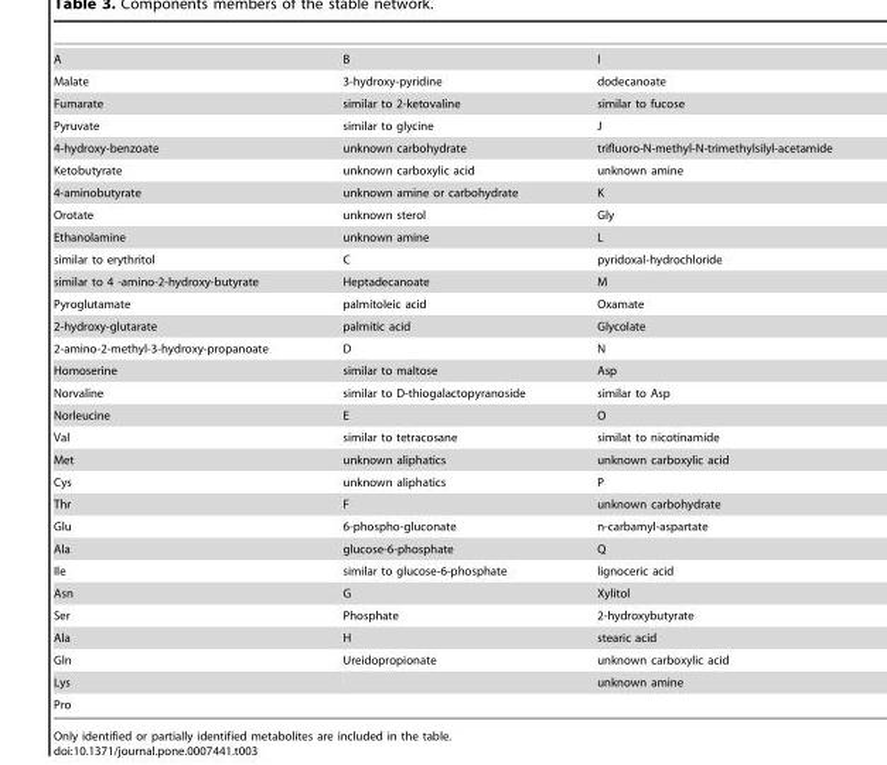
<table><tbody><tr><td>A</td><td>B</td><td>I</td></tr><tr><td>Malate</td><td>3-hydroxy-pyridine</td><td>dodecanoate</td></tr><tr><td>Fumarate</td><td>similar to 2-ketovaline</td><td>similar to fucose</td></tr><tr><td>Pyruvate</td><td>similar to glycine</td><td>J</td></tr><tr><td>4-hydroxy-benzoate</td><td>unknown carbohydrate</td><td>trifluoro-N-methyl-N-trimethylsilyl-acetamide</td></tr><tr><td>Ketobutyrate</td><td>unknown carboxylic acid</td><td>unknown amine</td></tr><tr><td>4-aminobutyrate</td><td>unknown amine or carbohydrate</td><td>K</td></tr><tr><td>Orotate</td><td>unknown sterol</td><td>Gly</td></tr><tr><td>Ethanolamine</td><td>unknown amine</td><td>L</td></tr><tr><td>similar to erythritol</td><td>C</td><td>pyridoxal-hydrochloride</td></tr><tr><td>similar to 4 -amino-2-hydroxy-butyrate</td><td>Heptadecanoate</td><td>M</td></tr><tr><td>Pyroglutamate</td><td>palmitoleic acid</td><td>Oxamate</td></tr><tr><td>2-hydroxy-glutarate</td><td>palmitic acid</td><td>Glycolate</td></tr><tr><td>2-amino-2-methyl-3-hydroxy-propanoate</td><td>D</td><td>N</td></tr><tr><td>Homoserine</td><td>similar to maltose</td><td>Asp</td></tr><tr><td>Norvaline</td><td>similar to D-thiogalactopyranoside</td><td>similar to Asp</td></tr><tr><td>Norleucine</td><td>E</td><td>O</td></tr><tr><td>Val</td><td>similar to tetracosane</td><td>similat to nicotinamide</td></tr><tr><td>Met</td><td>unknown aliphatics</td><td>unknown carboxylic acid</td></tr><tr><td>Cys</td><td>unknown aliphatics</td><td>P</td></tr><tr><td>Thr</td><td>F</td><td>unknown carbohydrate</td></tr><tr><td>Glu</td><td>6-phospho-gluconate</td><td>n-carbamyl-aspartate</td></tr><tr><td>Ala</td><td>glucose-6-phosphate</td><td>Q</td></tr><tr><td>Ile</td><td>similar to glucose-6-phosphate</td><td>lignoceric acid</td></tr><tr><td>Asn</td><td>G</td><td>Xylitol</td></tr><tr><td>Ser</td><td>Phosphate</td><td>2-hydroxybutyrate</td></tr><tr><td>Ala</td><td>H</td><td>stearic acid</td></tr><tr><td>Gln</td><td>Ureidopropionate</td><td>unknown carboxylic acid</td></tr><tr><td>Lys</td><td></td><td>unknown amine</td></tr><tr><td>Pro</td><td></td><td></td></tr></tbody></table>